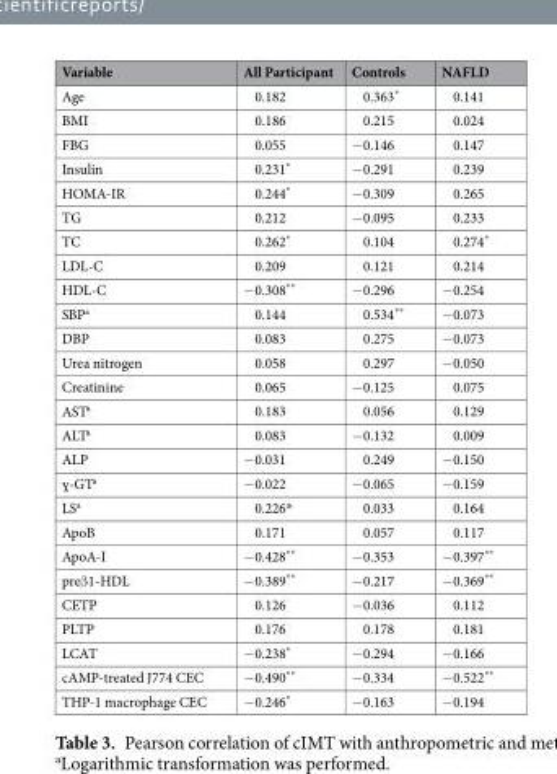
<table><thead><tr><td>Variable</td><td>All Participant</td><td>Controls</td><td>NAFLD</td></tr></thead><tbody><tr><td>Age</td><td>0.182</td><td>0.363*</td><td>0.141</td></tr><tr><td>BMI</td><td>0.186</td><td>0.215</td><td>0.024</td></tr><tr><td>FBG</td><td>0.055</td><td>−0.146</td><td>0.147</td></tr><tr><td>Insulin</td><td>0.231*</td><td>−0.291</td><td>0.239</td></tr><tr><td>HOMA-IR</td><td>0.244*</td><td>−0.309</td><td>0.265</td></tr><tr><td>TG</td><td>0.212</td><td>−0.095</td><td>0.233</td></tr><tr><td>TC</td><td>0.262*</td><td>0.104</td><td>0.274*</td></tr><tr><td>LDL-C</td><td>0.209</td><td>0.121</td><td>0.214</td></tr><tr><td>HDL-C</td><td>−0.308**</td><td>−0.296</td><td>−0.254</td></tr><tr><td>SBP<sup>a</sup></td><td>0.144</td><td>0.534**</td><td>−0.073</td></tr><tr><td>DBP</td><td>0.083</td><td>0.275</td><td>−0.073</td></tr><tr><td>Urea nitrogen</td><td>0.058</td><td>0.297</td><td>−0.050</td></tr><tr><td>Creatinine</td><td>0.065</td><td>−0.125</td><td>0.075</td></tr><tr><td>AST<sup>a</sup></td><td>0.183</td><td>0.056</td><td>0.129</td></tr><tr><td>ALT<sup>a</sup></td><td>0.083</td><td>−0.132</td><td>0.009</td></tr><tr><td>ALP</td><td>−0.031</td><td>0.249</td><td>−0.150</td></tr><tr><td>ɣ-GT<sup>a</sup></td><td>−0.022</td><td>−0.065</td><td>−0.159</td></tr><tr><td>LS<sup>a</sup></td><td>0.226*</td><td>0.033</td><td>0.164</td></tr><tr><td>ApoB</td><td>0.171</td><td>0.057</td><td>0.117</td></tr><tr><td>ApoA-I</td><td>−0.428**</td><td>−0.353</td><td>−0.397**</td></tr><tr><td>preβ1-HDL</td><td>−0.389**</td><td>−0.217</td><td>−0.369**</td></tr><tr><td>CETP</td><td>0.126</td><td>−0.036</td><td>0.112</td></tr><tr><td>PLTP</td><td>0.176</td><td>0.178</td><td>0.181</td></tr><tr><td>LCAT</td><td>−0.238*</td><td>−0.294</td><td>−0.166</td></tr><tr><td>cAMP-treated J774 CEC</td><td>−0.490**</td><td>−0.334</td><td>−0.522**</td></tr><tr><td>THP-1 macrophage CEC</td><td>−0.246*</td><td>−0.163</td><td>−0.194</td></tr></tbody></table>